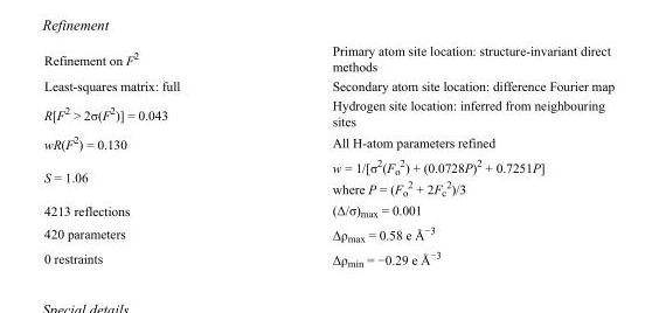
<table><tbody><tr><td>Refinement on F<sup>2</sup></td><td>Primary atom site location: structure-invariant direct methods</td></tr><tr><td>Least-squares matrix: full</td><td>Secondary atom site location: difference Fourier map</td></tr><tr><td>R[F<sup>2</sup> &gt; 2σ(F<sup>2</sup>)] = 0.043</td><td>Hydrogen site location: inferred from neighbouring sites</td></tr><tr><td>wR(F<sup>2</sup>) = 0.130</td><td>All H-atom parameters refined</td></tr><tr><td>S = 1.06</td><td>w = 1/[σ<sup>2</sup>(F<sub>o</sub> <sup>2</sup>) + (0.0728P)<sup>2</sup> + 0.7251P] where P = (F<sub>o</sub> <sup>2</sup> + 2F<sub>c</sub> <sup>2</sup>)/3</td></tr><tr><td>4213 reflections</td><td>(Δ/σ)<sub>max</sub> = 0.001</td></tr><tr><td>420 parameters</td><td>Δρ<sub>max</sub> = 0.58 e Å<sup>−3</sup></td></tr><tr><td>0 restraints</td><td>Δρ<sub>min</sub> = −0.29 e Å<sup>−3</sup></td></tr></tbody></table>